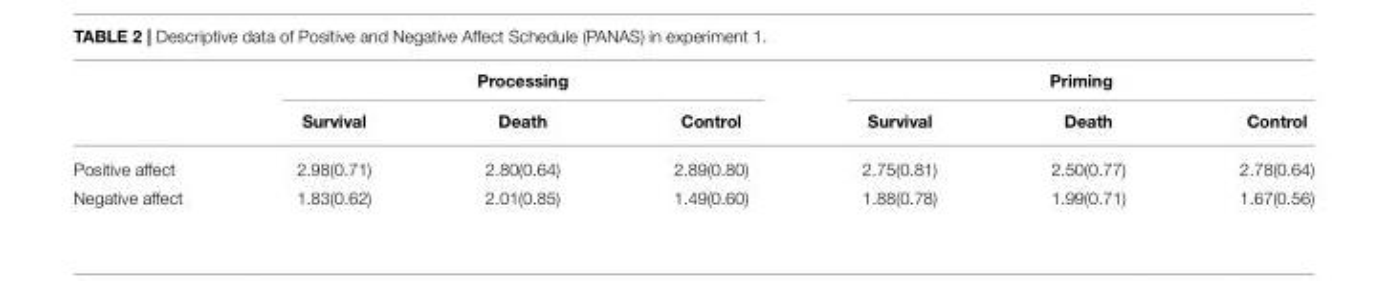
<table><thead><tr><td rowspan="2"></td><td colspan="3">Processing</td><td colspan="3">Priming</td></tr><tr><td>Survival</td><td>Death</td><td>Control</td><td>Survival</td><td>Death</td><td>Control</td></tr></thead><tbody><tr><td>Positive affect</td><td>2.98(0.71)</td><td>2.80(0.64)</td><td>2.89(0.80)</td><td>2.75(0.81)</td><td>2.50(0.77)</td><td>2.78(0.64)</td></tr><tr><td>Negative affect</td><td>1.83(0.62)</td><td>2.01(0.85)</td><td>1.49(0.60)</td><td>1.88(0.78)</td><td>1.99(0.71)</td><td>1.67(0.56)</td></tr></tbody></table>